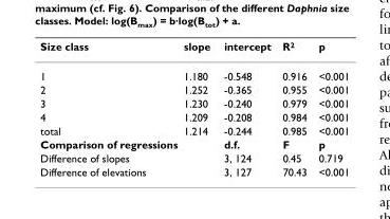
<table><thead><tr><td>Size class</td><td>slope</td><td>intercept</td><td>R2</td><td>p</td></tr></thead><tbody><tr><td>1</td><td>1.180</td><td>-0.548</td><td>0.916</td><td>&lt;0.001</td></tr><tr><td>2</td><td>1.252</td><td>-0.365</td><td>0.955</td><td>&lt;0.001</td></tr><tr><td>3</td><td>1.230</td><td>-0.240</td><td>0.979</td><td>&lt;0.001</td></tr><tr><td>4</td><td>1.209</td><td>-0.208</td><td>0.984</td><td>&lt;0.001</td></tr><tr><td>total</td><td>1.214</td><td>-0.244</td><td>0.985</td><td>&lt;0.001</td></tr><tr><td colspan="2">Comparison of regressions</td><td>d.f.</td><td>F</td><td>p</td></tr><tr><td colspan="2">Difference of slopes</td><td>3, 124</td><td>0.45</td><td>0.719</td></tr><tr><td colspan="2">Difference of elevations</td><td>3, 127</td><td>70.43</td><td>&lt;0.001</td></tr></tbody></table>